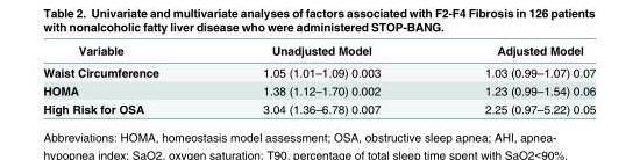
<table><thead><tr><td>Variable</td><td>Unadjusted Model</td><td>Adjusted Model</td></tr></thead><tbody><tr><td>Waist Circumference</td><td>1.05 (1.01–1.09) 0.003</td><td>1.03 (0.99–1.07) 0.07</td></tr><tr><td>HOMA</td><td>1.38 (1.12–1.70) 0.002</td><td>1.23 (0.99–1.54) 0.06</td></tr><tr><td>High Risk for OSA</td><td>3.04 (1.36–6.78) 0.007</td><td>2.25 (0.97–5.22) 0.05</td></tr></tbody></table>